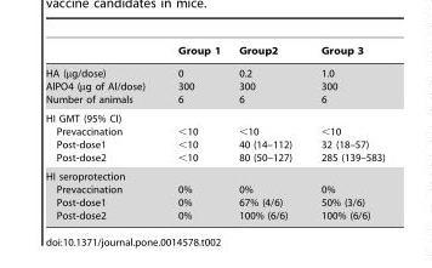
<table><thead><tr><td></td><td>Group 1</td><td>Group2</td><td>Group 3</td></tr></thead><tbody><tr><td>HA (µg/dose) AlPO4 (µg of Al/dose) Number of animals</td><td>0 300 6</td><td>0.2 300 6</td><td>1.0 300 6</td></tr><tr><td>HI GMT (95% CI) Prevaccination Post-dose1 Post-dose2</td><td>&lt;10 &lt;10 &lt;10</td><td>&lt;10 40 (14–112) 80 (50–127)</td><td>&lt;10 32 (18–57) 285 (139–583)</td></tr><tr><td>HI seroprotection Prevaccination Post-dose1 Post-dose2</td><td>0% 0% 0%</td><td>0% 67% (4/6) 100% (6/6)</td><td>0% 50% (3/6) 100% (6/6)</td></tr></tbody></table>